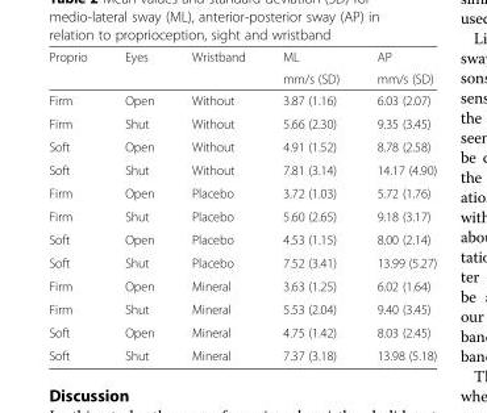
<table><thead><tr><td rowspan="2">Proprio</td><td rowspan="2">Eyes</td><td rowspan="2">Wristband</td><td rowspan="2">ML mm/s (SD)</td><td rowspan="2">AP mm/s (SD)</td></tr><tr></tr></thead><tbody><tr><td>Firm</td><td>Open</td><td>Without</td><td>3.87 (1.16)</td><td>6.03 (2.07)</td></tr><tr><td>Firm</td><td>Shut</td><td>Without</td><td>5.66 (2.30)</td><td>9.35 (3.45)</td></tr><tr><td>Soft</td><td>Open</td><td>Without</td><td>4.91 (1.52)</td><td>8.78 (2.58)</td></tr><tr><td>Soft</td><td>Shut</td><td>Without</td><td>7.81 (3.14)</td><td>14.17 (4.90)</td></tr><tr><td>Firm</td><td>Open</td><td>Placebo</td><td>3.72 (1.03)</td><td>5.72 (1.76)</td></tr><tr><td>Firm</td><td>Shut</td><td>Placebo</td><td>5.60 (2.65)</td><td>9.18 (3.17)</td></tr><tr><td>Soft</td><td>Open</td><td>Placebo</td><td>4.53 (1.15)</td><td>8.00 (2.14)</td></tr><tr><td>Soft</td><td>Shut</td><td>Placebo</td><td>7.52 (3.41)</td><td>13.99 (5.27)</td></tr><tr><td>Firm</td><td>Open</td><td>Mineral</td><td>3.63 (1.25)</td><td>6.02 (1.64)</td></tr><tr><td>Firm</td><td>Shut</td><td>Mineral</td><td>5.53 (2.04)</td><td>9.40 (3.45)</td></tr><tr><td>Soft</td><td>Open</td><td>Mineral</td><td>4.75 (1.42)</td><td>8.03 (2.45)</td></tr><tr><td>Soft</td><td>Shut</td><td>Mineral</td><td>7.37 (3.18)</td><td>13.98 (5.18)</td></tr></tbody></table>